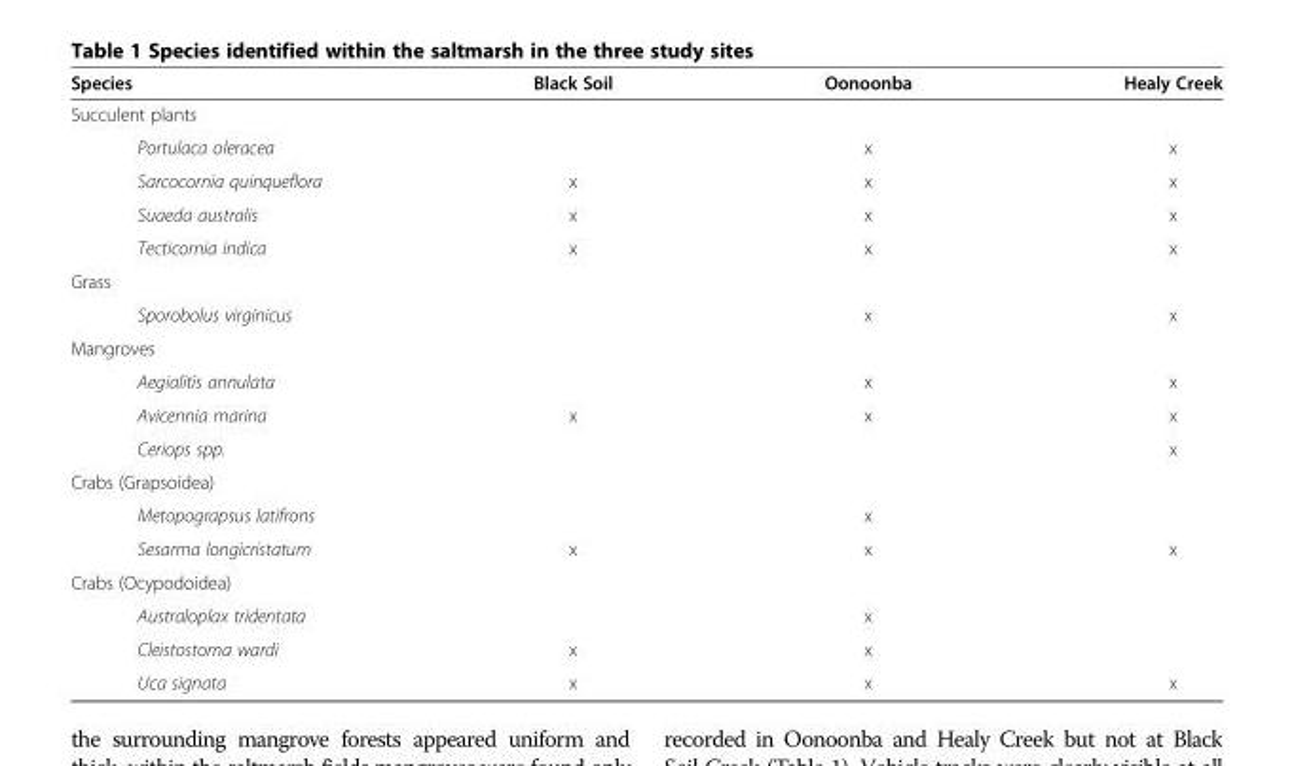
<table><thead><tr><td>Species</td><td>Black Soil</td><td>Oonoonba</td><td>Healy Creek</td></tr></thead><tbody><tr><td colspan="4">Succulent plants</td></tr><tr><td>Portulaca oleracea</td><td></td><td>x</td><td>x</td></tr><tr><td>Sarcocornia quinqueflora</td><td>x</td><td>x</td><td>x</td></tr><tr><td>Suaeda australis</td><td>x</td><td>x</td><td>x</td></tr><tr><td>Tecticornia indica</td><td>x</td><td>x</td><td>x</td></tr><tr><td colspan="4">Grass</td></tr><tr><td>Sporobolus virginicus</td><td></td><td>x</td><td>x</td></tr><tr><td colspan="4">Mangroves</td></tr><tr><td>Aegialitis annulata</td><td></td><td>x</td><td>x</td></tr><tr><td>Avicennia marina</td><td>x</td><td>x</td><td>x</td></tr><tr><td>Ceriops spp.</td><td></td><td></td><td>x</td></tr><tr><td colspan="4">Crabs (Grapsoidea)</td></tr><tr><td>Metopograpsus latifrons</td><td></td><td>x</td><td></td></tr><tr><td>Sesarma longicristatum</td><td>x</td><td>x</td><td>x</td></tr><tr><td colspan="4">Crabs (Ocypodoidea)</td></tr><tr><td>Australoplax tridentata</td><td></td><td>x</td><td></td></tr><tr><td>Cleistostoma wardi</td><td>x</td><td>x</td><td></td></tr><tr><td>Uca signata</td><td>x</td><td>x</td><td>x</td></tr></tbody></table>